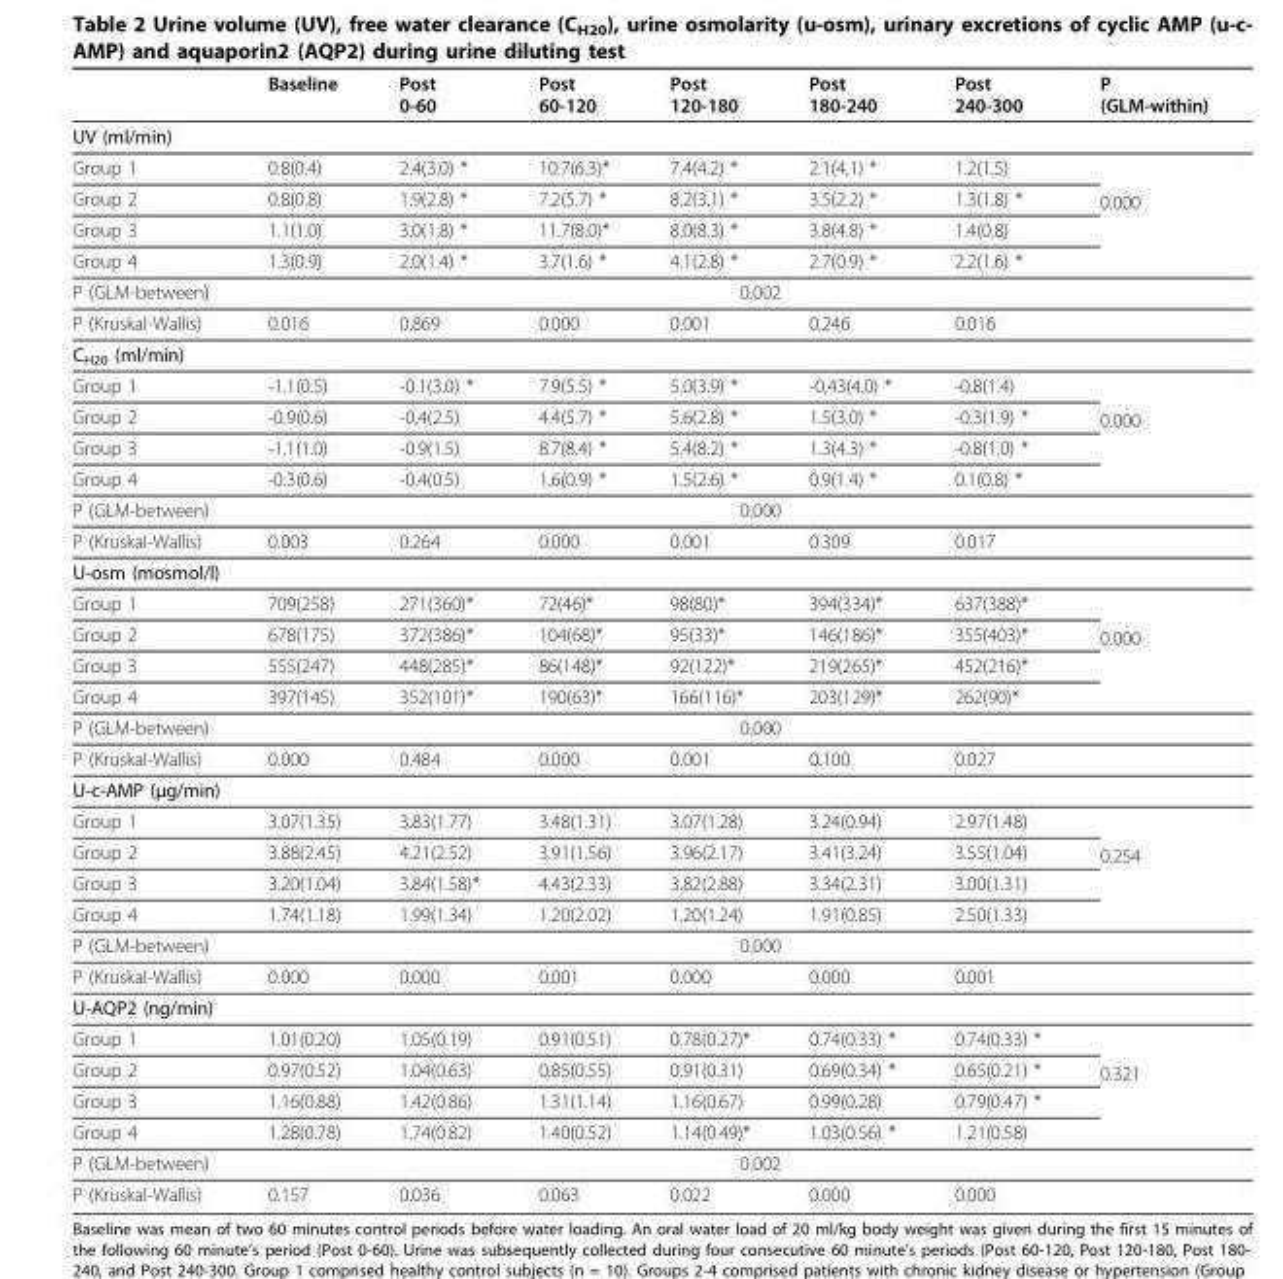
<table><thead><tr><td></td><td>Baseline</td><td>Post 0-60</td><td>Post 60-120</td><td>Post 120-180</td><td>Post 180-240</td><td>Post 240-300</td><td>P (GLM-within)</td></tr></thead><tbody><tr><td colspan="8">UV (ml/min)</td></tr><tr><td>Group 1</td><td>0.8(0.4)</td><td>2.4(3.0) *</td><td>10.7(6.3)*</td><td>7.4(4.2) *</td><td>2.1(4,1) *</td><td>1.2(1.5)</td><td rowspan="4">0.000</td></tr><tr><td>Group 2</td><td>0.8(0.8)</td><td>1.9(2.8) *</td><td>7.2(5.7) *</td><td>8.2(3.1) *</td><td>3.5(2.2) *</td><td>1.3(1.8) *</td></tr><tr><td>Group 3</td><td>1.1(1.0)</td><td>3.0(1.8) *</td><td>11.7(8.0)*</td><td>8.0(8.3) *</td><td>3.8(4.8) *</td><td>1.4(0.8)</td></tr><tr><td>Group 4</td><td>1.3(0.9)</td><td>2.0(1.4) *</td><td>3.7(1.6) *</td><td>4.1(2.8) *</td><td>2.7(0.9) *</td><td>2.2(1.6) *</td></tr><tr><td>P (GLM-between)</td><td colspan="7">0.002</td></tr><tr><td>P (Kruskal-Wallis)</td><td>0.016</td><td>0.869</td><td>0.000</td><td>0.001</td><td>0.246</td><td>0.016</td><td></td></tr><tr><td colspan="8">C<sub>H20</sub> (ml/min)</td></tr><tr><td>Group 1</td><td>-1.1(0.5)</td><td>-0.1(3.0) *</td><td>7.9(5.5) *</td><td>5.0(3.9) *</td><td>-0,43(4.0) *</td><td>-0.8(1.4)</td><td rowspan="4">0.000</td></tr><tr><td>Group 2</td><td>-0.9(0.6)</td><td>-0,4(2.5)</td><td>4.4(5.7) *</td><td>5.6(2.8) *</td><td>1.5(3.0) *</td><td>-0.3(1.9) *</td></tr><tr><td>Group 3</td><td>-1.1(1.0)</td><td>-0.9(1.5)</td><td>8.7(8.4) *</td><td>5.4(8.2) *</td><td>1.3(4.3) *</td><td>-0.8(1.0) *</td></tr><tr><td>Group 4</td><td>-0.3(0.6)</td><td>-0.4(0.5)</td><td>1.6(0.9) *</td><td>1.5(2.6) *</td><td>0.9(1.4) *</td><td>0.1(0.8) *</td></tr><tr><td>P (GLM-between)</td><td colspan="7">0.000</td></tr><tr><td>P (Kruskal-Wallis)</td><td>0.003</td><td>0.264</td><td>0.000</td><td>0.001</td><td>0.309</td><td>0.017</td><td></td></tr><tr><td colspan="8">U-osm (mosmol/l)</td></tr><tr><td>Group 1</td><td>709(258)</td><td>271(360)*</td><td>72(46)*</td><td>98(80)*</td><td>394(334)*</td><td>637(388)*</td><td rowspan="4">0.000</td></tr><tr><td>Group 2</td><td>678(175)</td><td>372(386)*</td><td>104(68)*</td><td>95(33)*</td><td>146(186)*</td><td>355(403)*</td></tr><tr><td>Group 3</td><td>555(247)</td><td>448(285)*</td><td>86(148)*</td><td>92(122)*</td><td>219(265)*</td><td>452(216)*</td></tr><tr><td>Group 4</td><td>397(145)</td><td>352(101)*</td><td>190(63)*</td><td>166(116)*</td><td>203(129)*</td><td>262(90)*</td></tr><tr><td>P (GLM-between)</td><td colspan="7">0.000</td></tr><tr><td>P (Kruskal-Wallis)</td><td>0.000</td><td>0.484</td><td>0.000</td><td>0.001</td><td>0.100</td><td>0.027</td><td></td></tr><tr><td colspan="8">U-c-AMP (μg/min)</td></tr><tr><td>Group 1</td><td>3.07(1.35)</td><td>3.83(1.77)</td><td>3.48(1.31)</td><td>3.07(1.28)</td><td>3.24(0.94)</td><td>2.97(1.48)</td><td rowspan="4">0.254</td></tr><tr><td>Group 2</td><td>3.88(2.45)</td><td>4.21(2.52)</td><td>3.91(1.56)</td><td>3.96(2.17)</td><td>3.41(3.24)</td><td>3.55(1.04)</td></tr><tr><td>Group 3</td><td>3.20(1.04)</td><td>3.84(1.58)*</td><td>4.43(2.33)</td><td>3.82(2.88)</td><td>3.34(2.31)</td><td>3.00(1.31)</td></tr><tr><td>Group 4</td><td>1.74(1.18)</td><td>1.99(1.34)</td><td>1.20(2.02)</td><td>1.20(1.24)</td><td>1.91(0.85)</td><td>2.50(1.33)</td></tr><tr><td>P (GLM-between)</td><td colspan="7">0.000</td></tr><tr><td>P (Kruskal-Wallis)</td><td>0.000</td><td>0.000</td><td>0.001</td><td>0.000</td><td>0.000</td><td>0.001</td><td></td></tr><tr><td colspan="8">U-AQP2 (ng/min)</td></tr><tr><td>Group 1</td><td>1.01(0.20)</td><td>1.05(0.19)</td><td>0.91(0.51)</td><td>0.78(0.27)*</td><td>0.74(0.33) *</td><td>0.74(0.33) *</td><td rowspan="4">0.321</td></tr><tr><td>Group 2</td><td>0.97(0.52)</td><td>1.04(0.63)</td><td>0.85(0.55)</td><td>0.91(0.31)</td><td>0.69(0.34) *</td><td>0.65(0.21) *</td></tr><tr><td>Group 3</td><td>1.16(0.88)</td><td>1.42(0.86)</td><td>1.31(1.14)</td><td>1.16(0.67)</td><td>0.99(0.28)</td><td>0.79(0.47) *</td></tr><tr><td>Group 4</td><td>1.28(0.78)</td><td>1.74(0.82)</td><td>1.40(0.52)</td><td>1.14(0.49)*</td><td>1.03(0.56) *</td><td>1.21(0.58)</td></tr><tr><td>P (GLM-between)</td><td colspan="7">0.002</td></tr><tr><td>P (Kruskal-Wallis)</td><td>0.157</td><td>0.036</td><td>0.063</td><td>0.022</td><td>0.000</td><td>0.000</td><td></td></tr></tbody></table>